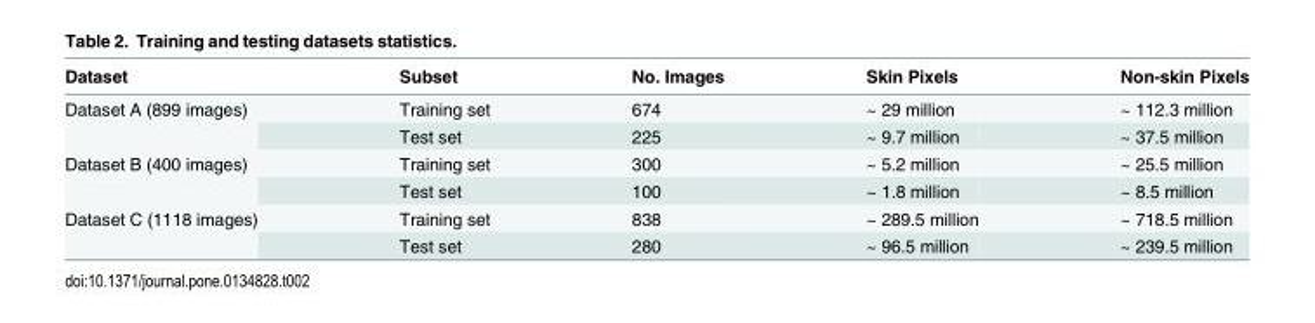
<table><thead><tr><td>Dataset</td><td>Subset</td><td>No. Images</td><td>Skin Pixels</td><td>Non-skin Pixels</td></tr></thead><tbody><tr><td rowspan="2">Dataset A (899 images)</td><td>Training set</td><td>674</td><td>~ 29 million</td><td>~ 112.3 million</td></tr><tr><td>Test set</td><td>225</td><td>~ 9.7 million</td><td>~ 37.5 million</td></tr><tr><td rowspan="2">Dataset B (400 images)</td><td>Training set</td><td>300</td><td>~ 5.2 million</td><td>~ 25.5 million</td></tr><tr><td>Test set</td><td>100</td><td>~ 1.8 million</td><td>~ 8.5 million</td></tr><tr><td rowspan="2">Dataset C (1118 images)</td><td>Training set</td><td>838</td><td>~ 289.5 million</td><td>~ 718.5 million</td></tr><tr><td>Test set</td><td>280</td><td>~ 96.5 million</td><td>~ 239.5 million</td></tr></tbody></table>